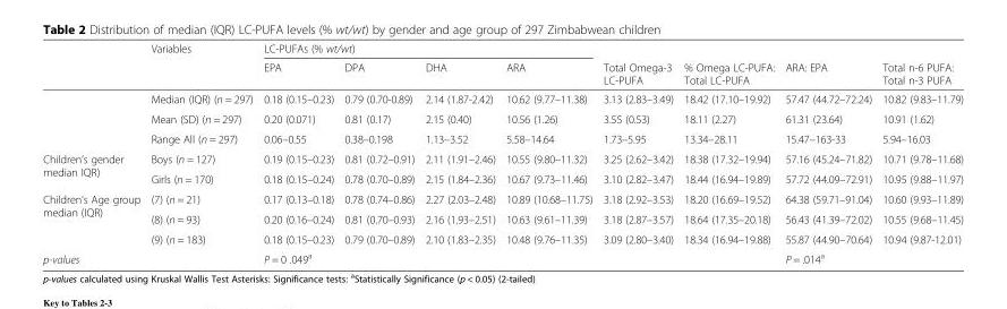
<table><thead><tr><td rowspan="2"></td><td rowspan="2">Variables</td><td colspan="4">LC-PUFAs (% wt/wt)</td><td rowspan="2">Total Omega-3 LC-PUFA</td><td rowspan="2">% Omega LC-PUFA: Total LC-PUFA</td><td rowspan="2">ARA: EPA</td><td rowspan="2">Total n-6 PUFA: Total n-3 PUFA</td></tr><tr><td>EPA</td><td>DPA</td><td>DHA</td><td>ARA</td></tr></thead><tbody><tr><td></td><td>Median (IQR) (n = 297)</td><td>0.18 (0.15–0.23)</td><td>0.79 (0.70-0.89)</td><td>2.14 (1.87-2.42)</td><td>10.62 (9.77–11.38)</td><td>3.13 (2.83–3.49)</td><td>18.42 (17.10–19.92)</td><td>57.47 (44.72–72.24)</td><td>10.82 (9.83–11.79)</td></tr><tr><td></td><td>Mean (SD) (n = 297)</td><td>0.20 (0.071)</td><td>0.81 (0.17)</td><td>2.15 (0.40)</td><td>10.56 (1.26)</td><td>3.55 (0.53)</td><td>18.11 (2.27)</td><td>61.31 (23.64)</td><td>10.91 (1.62)</td></tr><tr><td></td><td>Range All (n = 297)</td><td>0.06–0.55</td><td>0.38–0.198</td><td>1.13–3.52</td><td>5.58–14.64</td><td>1.73–5.95</td><td>13.34–28.11</td><td>15.47–163-33</td><td>5.94–16.03</td></tr><tr><td rowspan="2">Children’s gender median IQR)</td><td>Boys (n = 127)</td><td>0.19 (0.15–0.23)</td><td>0.81 (0.72–0.91)</td><td>2.11 (1.91–2.46)</td><td>10.55 (9.80–11.32)</td><td>3.25 (2.62–3.42)</td><td>18.38 (17.32–19.94)</td><td>57.16 (45.24–71.82)</td><td>10.71 (9.78–11.68)</td></tr><tr><td>Girls (n = 170)</td><td>0.18 (0.15–0.24)</td><td>0.78 (0.70–0.89)</td><td>2.15 (1.84–2.36)</td><td>10.67 (9.73–11.46)</td><td>3.10 (2.82–3.47)</td><td>18.44 (16.94–19.89)</td><td>57.72 (44.09–72.91)</td><td>10.95 (9.88–11.97)</td></tr><tr><td rowspan="3">Children’s Age group median (IQR)</td><td>(7) (n = 21)</td><td>0.17 (0.13–0.18)</td><td>0.78 (0.74–0.86)</td><td>2.27 (2.03–2.48)</td><td>10.89 (10.68–11.75)</td><td>3.18 (2.92–3.53)</td><td>18.20 (16.69–19.52)</td><td>64.38 (59.71–91.04)</td><td>10.60 (9.93–11.89)</td></tr><tr><td>(8) (n = 93)</td><td>0.20 (0.16–0.24)</td><td>0.81 (0.70–0.93)</td><td>2.16 (1.93–2.51)</td><td>10.63 (9.61–11.39)</td><td>3.18 (2.87–3.57)</td><td>18.64 (17.35–20.18)</td><td>56.43 (41.39–72.02)</td><td>10.55 (9.68–11.45)</td></tr><tr><td>(9) (n = 183)</td><td>0.18 (0.15–0.23)</td><td>0.79 (0.70–0.89)</td><td>2.10 (1.83–2.35)</td><td>10.48 (9.76–11.35)</td><td>3.09 (2.80–3.40)</td><td>18.34 (16.94–19.88)</td><td>55.87 (44.90–70.64)</td><td>10.94 (9.87-12.01)</td></tr><tr><td>p-values</td><td></td><td>P = 0 .049<sup>a</sup></td><td></td><td></td><td></td><td></td><td></td><td>P = .014<sup>a</sup></td><td></td></tr></tbody></table>